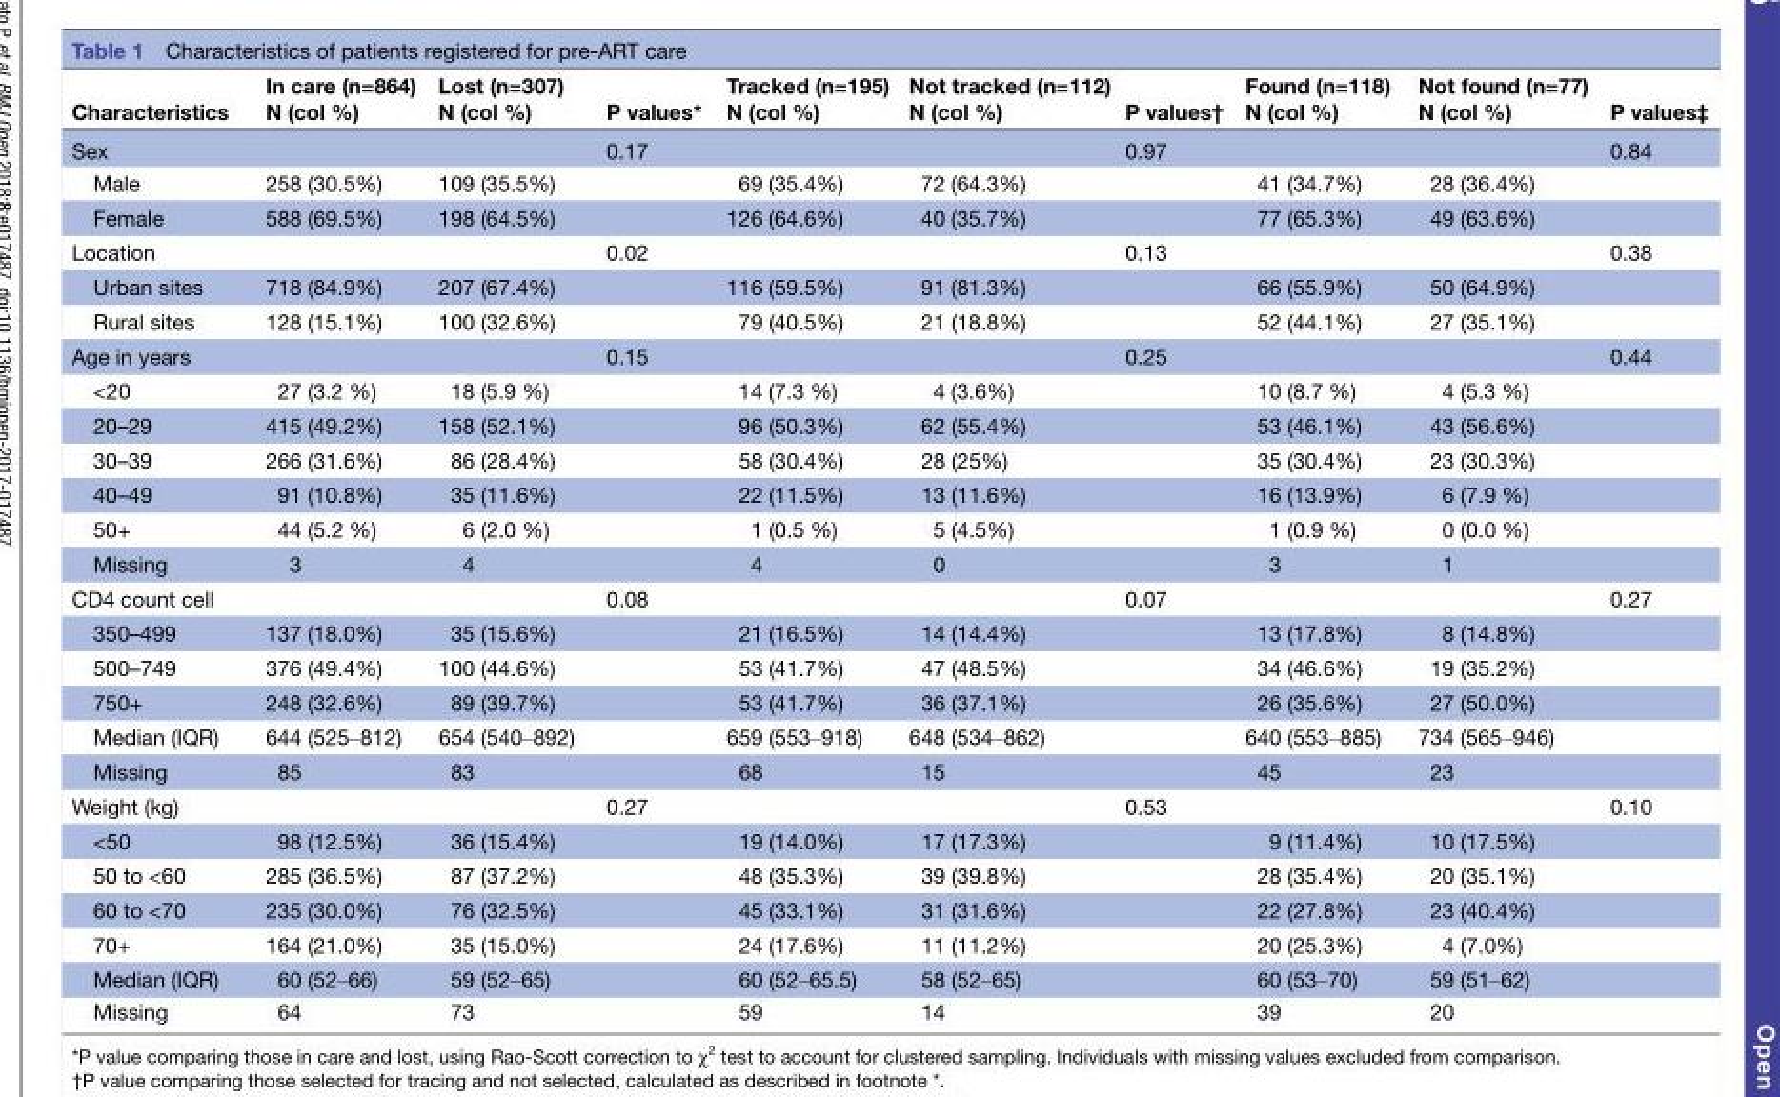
<table><thead><tr><td>Characteristics</td><td>In care (n=864) N (col %)</td><td>Lost (n=307) N (col %)</td><td>P values*</td><td>Tracked (n=195) N (col %)</td><td>Not tracked (n=112) N (col %)</td><td>P values†</td><td>Found (n=118) N (col %)</td><td>Not found (n=77) N (col %)</td><td>P values‡</td></tr></thead><tbody><tr><td>Sex</td><td></td><td></td><td>0.17</td><td></td><td></td><td>0.97</td><td></td><td></td><td>0.84</td></tr><tr><td>Male</td><td>258 (30.5%)</td><td>109 (35.5%)</td><td></td><td>69 (35.4%)</td><td>72 (64.3%)</td><td></td><td>41 (34.7%)</td><td>28 (36.4%)</td><td></td></tr><tr><td>Female</td><td>588 (69.5%)</td><td>198 (64.5%)</td><td></td><td>126 (64.6%)</td><td>40 (35.7%)</td><td></td><td>77 (65.3%)</td><td>49 (63.6%)</td><td></td></tr><tr><td>Location</td><td></td><td></td><td>0.02</td><td></td><td></td><td>0.13</td><td></td><td></td><td>0.38</td></tr><tr><td>Urban sites</td><td>718 (84.9%)</td><td>207 (67.4%)</td><td></td><td>116 (59.5%)</td><td>91 (81.3%)</td><td></td><td>66 (55.9%)</td><td>50 (64.9%)</td><td></td></tr><tr><td>Rural sites</td><td>128 (15.1%)</td><td>100 (32.6%)</td><td></td><td>79 (40.5%)</td><td>21 (18.8%)</td><td></td><td>52 (44.1%)</td><td>27 (35.1%)</td><td></td></tr><tr><td>Age in years</td><td></td><td></td><td>0.15</td><td></td><td></td><td>0.25</td><td></td><td></td><td>0.44</td></tr><tr><td>&lt;20</td><td>27 (3.2 %)</td><td>18 (5.9 %)</td><td></td><td>14 (7.3 %)</td><td>4 (3.6%)</td><td></td><td>10 (8.7 %)</td><td>4 (5.3 %)</td><td></td></tr><tr><td>20–29</td><td>415 (49.2%)</td><td>158 (52.1%)</td><td></td><td>96 (50.3%)</td><td>62 (55.4%)</td><td></td><td>53 (46.1%)</td><td>43 (56.6%)</td><td></td></tr><tr><td>30–39</td><td>266 (31.6%)</td><td>86 (28.4%)</td><td></td><td>58 (30.4%)</td><td>28 (25%)</td><td></td><td>35 (30.4%)</td><td>23 (30.3%)</td><td></td></tr><tr><td>40–49</td><td>91 (10.8%)</td><td>35 (11.6%)</td><td></td><td>22 (11.5%)</td><td>13 (11.6%)</td><td></td><td>16 (13.9%)</td><td>6 (7.9 %)</td><td></td></tr><tr><td>50+</td><td>44 (5.2 %)</td><td>6 (2.0 %)</td><td></td><td>1 (0.5 %)</td><td>5 (4.5%)</td><td></td><td>1 (0.9 %)</td><td>0 (0.0 %)</td><td></td></tr><tr><td>Missing</td><td>3</td><td>4</td><td></td><td>4</td><td>0</td><td></td><td>3</td><td>1</td><td></td></tr><tr><td>CD4 count cell</td><td></td><td></td><td>0.08</td><td></td><td></td><td>0.07</td><td></td><td></td><td>0.27</td></tr><tr><td>350–499</td><td>137 (18.0%)</td><td>35 (15.6%)</td><td></td><td>21 (16.5%)</td><td>14 (14.4%)</td><td></td><td>13 (17.8%)</td><td>8 (14.8%)</td><td></td></tr><tr><td>500–749</td><td>376 (49.4%)</td><td>100 (44.6%)</td><td></td><td>53 (41.7%)</td><td>47 (48.5%)</td><td></td><td>34 (46.6%)</td><td>19 (35.2%)</td><td></td></tr><tr><td>750+</td><td>248 (32.6%)</td><td>89 (39.7%)</td><td></td><td>53 (41.7%)</td><td>36 (37.1%)</td><td></td><td>26 (35.6%)</td><td>27 (50.0%)</td><td></td></tr><tr><td>Median (IQR)</td><td>644 (525‒812)</td><td>654 (540‒892)</td><td></td><td>659 (553‒918)</td><td>648 (534‒862)</td><td></td><td>640 (553‒885)</td><td>734 (565‒946)</td><td></td></tr><tr><td>Missing</td><td>85</td><td>83</td><td></td><td>68</td><td>15</td><td></td><td>45</td><td>23</td><td></td></tr><tr><td>Weight (kg)</td><td></td><td></td><td>0.27</td><td></td><td></td><td>0.53</td><td></td><td></td><td>0.10</td></tr><tr><td>&lt;50</td><td>98 (12.5%)</td><td>36 (15.4%)</td><td></td><td>19 (14.0%)</td><td>17 (17.3%)</td><td></td><td>9 (11.4%)</td><td>10 (17.5%)</td><td></td></tr><tr><td>50 to &lt;60</td><td>285 (36.5%)</td><td>87 (37.2%)</td><td></td><td>48 (35.3%)</td><td>39 (39.8%)</td><td></td><td>28 (35.4%)</td><td>20 (35.1%)</td><td></td></tr><tr><td>60 to &lt;70</td><td>235 (30.0%)</td><td>76 (32.5%)</td><td></td><td>45 (33.1%)</td><td>31 (31.6%)</td><td></td><td>22 (27.8%)</td><td>23 (40.4%)</td><td></td></tr><tr><td>70+</td><td>164 (21.0%)</td><td>35 (15.0%)</td><td></td><td>24 (17.6%)</td><td>11 (11.2%)</td><td></td><td>20 (25.3%)</td><td>4 (7.0%)</td><td></td></tr><tr><td>Median (IQR)</td><td>60 (52‒66)</td><td>59 (52‒65)</td><td></td><td>60 (52‒65.5)</td><td>58 (52‒65)</td><td></td><td>60 (53‒70)</td><td>59 (51‒62)</td><td></td></tr><tr><td>Missing</td><td>64</td><td>73</td><td></td><td>59</td><td>14</td><td></td><td>39</td><td>20</td><td></td></tr></tbody></table>